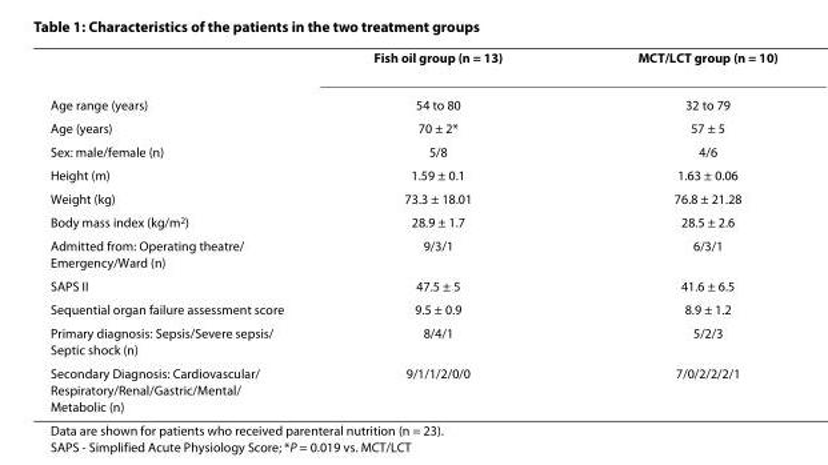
<table><thead><tr><td></td><td>Fish oil group (n = 13)</td><td>MCT/LCT group (n = 10)</td></tr></thead><tbody><tr><td>Age range (years)</td><td>54 to 80</td><td>32 to 79</td></tr><tr><td>Age (years)</td><td>70 ± 2*</td><td>57 ± 5</td></tr><tr><td>Sex: male/female (n)</td><td>5/8</td><td>4/6</td></tr><tr><td>Height (m)</td><td>1.59 ± 0.1</td><td>1.63 ± 0.06</td></tr><tr><td>Weight (kg)</td><td>73.3 ± 18.01</td><td>76.8 ± 21.28</td></tr><tr><td>Body mass index (kg/m<sup>2</sup>)</td><td>28.9 ± 1.7</td><td>28.5 ± 2.6</td></tr><tr><td>Admitted from: Operating theatre/ Emergency/Ward (n)</td><td>9/3/1</td><td>6/3/1</td></tr><tr><td>SAPS II</td><td>47.5 ± 5</td><td>41.6 ± 6.5</td></tr><tr><td>Sequential organ failure assessment score</td><td>9.5 ± 0.9</td><td>8.9 ± 1.2</td></tr><tr><td>Primary diagnosis: Sepsis/Severe sepsis/ Septic shock (n)</td><td>8/4/1</td><td>5/2/3</td></tr><tr><td>Secondary Diagnosis: Cardiovascular/ Respiratory/Renal/Gastric/Mental/ Metabolic (n)</td><td>9/1/1/2/0/0</td><td>7/0/2/2/2/1</td></tr></tbody></table>